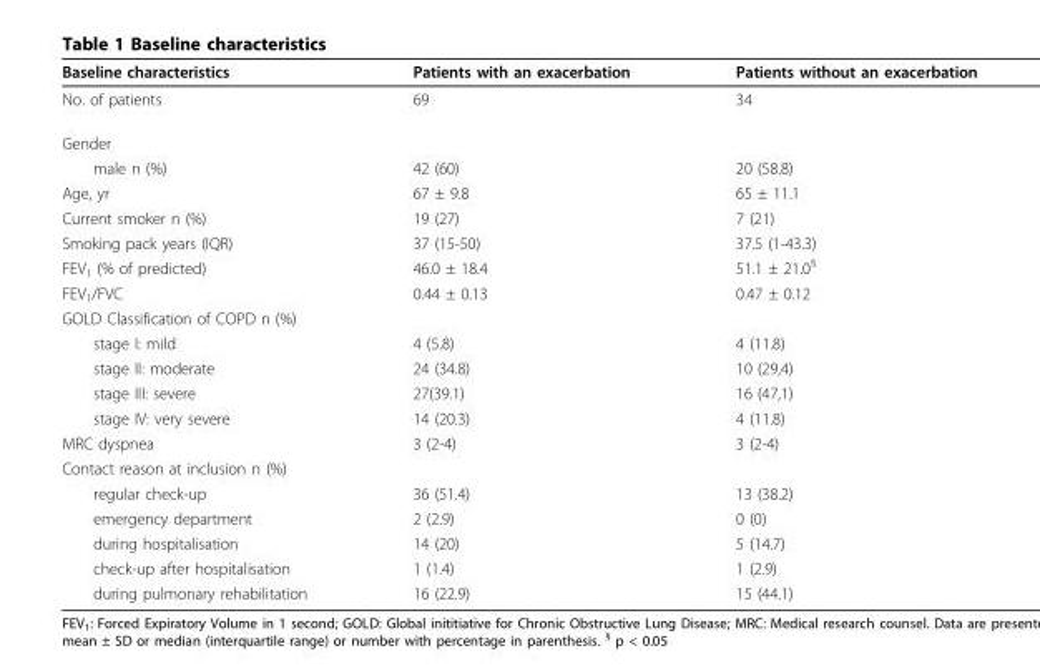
<table><thead><tr><td>Baseline characteristics</td><td>Patients with an exacerbation</td><td>Patients without an exacerbation</td></tr></thead><tbody><tr><td>No. of patients</td><td>69</td><td>34</td></tr><tr><td colspan="3">Gender</td></tr><tr><td>male n (%)</td><td>42 (60)</td><td>20 (58.8)</td></tr><tr><td>Age, yr</td><td>67 ± 9.8</td><td>65 ± 11.1</td></tr><tr><td>Current smoker n (%)</td><td>19 (27)</td><td>7 (21)</td></tr><tr><td>Smoking pack years (IQR)</td><td>37 (15-50)</td><td>37.5 (1-43.3)</td></tr><tr><td>FEV<sub>1</sub> (% of predicted)</td><td>46.0 ± 18.4</td><td>51.1 ± 21.0<sup>§</sup></td></tr><tr><td>FEV<sub>1</sub>/FVC</td><td>0.44 ± 0.13</td><td>0.47 ± 0.12</td></tr><tr><td colspan="3">GOLD Classification of COPD n (%)</td></tr><tr><td>stage I: mild</td><td>4 (5.8)</td><td>4 (11.8)</td></tr><tr><td>stage II: moderate</td><td>24 (34.8)</td><td>10 (29,4)</td></tr><tr><td>stage III: severe</td><td>27(39.1)</td><td>16 (47,1)</td></tr><tr><td>stage IV: very severe</td><td>14 (20.3)</td><td>4 (11.8)</td></tr><tr><td>MRC dyspnea</td><td>3 (2-4)</td><td>3 (2-4)</td></tr><tr><td colspan="3">Contact reason at inclusion n (%)</td></tr><tr><td>regular check-up</td><td>36 (51.4)</td><td>13 (38.2)</td></tr><tr><td>emergency department</td><td>2 (2.9)</td><td>0 (0)</td></tr><tr><td>during hospitalisation</td><td>14 (20)</td><td>5 (14.7)</td></tr><tr><td>check-up after hospitalisation</td><td>1 (1.4)</td><td>1 (2.9)</td></tr><tr><td>during pulmonary rehabilitation</td><td>16 (22.9)</td><td>15 (44.1)</td></tr></tbody></table>